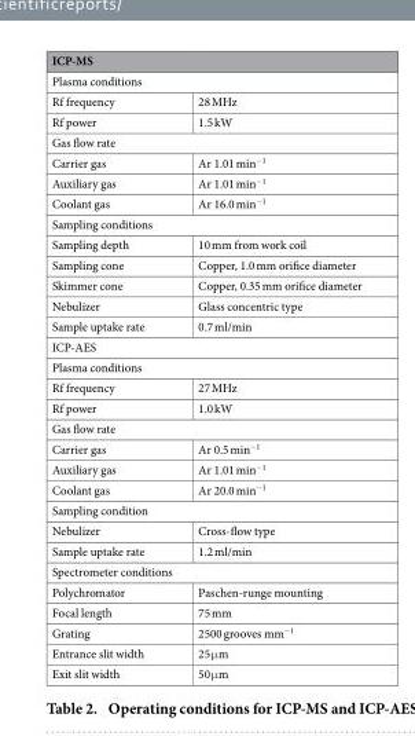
<table><thead><tr><td rowspan="2" colspan="2">ICP-MS Plasma conditions</td></tr><tr></tr><tr><td>Rf frequency</td><td>28 MHz</td></tr></thead><tbody><tr><td>Rf power</td><td>1.5 kW</td></tr><tr><td colspan="2">Gas flow rate</td></tr><tr><td>Carrier gas</td><td>Ar 1.01 min<sup>−1</sup></td></tr><tr><td>Auxiliary gas</td><td>Ar 1.01 min<sup>−1</sup></td></tr><tr><td>Coolant gas</td><td>Ar 16.0 min<sup>−1</sup></td></tr><tr><td colspan="2">Sampling conditions</td></tr><tr><td>Sampling depth</td><td>10 mm from work coil</td></tr><tr><td>Sampling cone</td><td>Copper, 1.0 mm orifice diameter</td></tr><tr><td>Skimmer cone</td><td>Copper, 0.35 mm orifice diameter</td></tr><tr><td>Nebulizer</td><td>Glass concentric type</td></tr><tr><td>Sample uptake rate</td><td>0.7 ml/min</td></tr><tr><td colspan="2">ICP-AES</td></tr><tr><td colspan="2">Plasma conditions</td></tr><tr><td>Rf frequency</td><td>27 MHz</td></tr><tr><td>Rf power</td><td>1.0 kW</td></tr><tr><td colspan="2">Gas flow rate</td></tr><tr><td>Carrier gas</td><td>Ar 0.5 min<sup>−1</sup></td></tr><tr><td>Auxiliary gas</td><td>Ar 1.01 min<sup>−1</sup></td></tr><tr><td>Coolant gas</td><td>Ar 20.0 min<sup>−1</sup></td></tr><tr><td colspan="2">Sampling condition</td></tr><tr><td>Nebulizer</td><td>Cross-flow type</td></tr><tr><td>Sample uptake rate</td><td>1.2 ml/min</td></tr><tr><td colspan="2">Spectrometer conditions</td></tr><tr><td>Polychromator</td><td>Paschen-runge mounting</td></tr><tr><td>Focal length</td><td>75 mm</td></tr><tr><td>Grating</td><td>2500 grooves mm<sup>−1</sup></td></tr><tr><td>Entrance slit width</td><td>25 μ m</td></tr><tr><td>Exit slit width</td><td>50 μ m</td></tr></tbody></table>